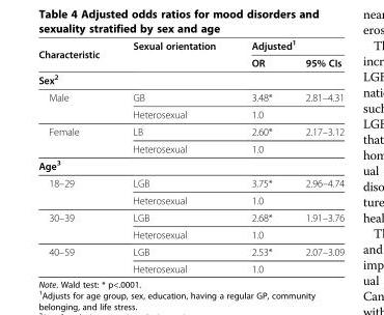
<table><thead><tr><td rowspan="2">Characteristic</td><td rowspan="2">Sexual orientation</td><td colspan="2">Adjusted<sup>1</sup></td></tr><tr><td>OR</td><td>95% CIs</td></tr></thead><tbody><tr><td colspan="4">Sex<sup>2</sup></td></tr><tr><td rowspan="2">Male</td><td>GB</td><td>3.48*</td><td>2.81–4.31</td></tr><tr><td>Heterosexual</td><td>1.0</td><td></td></tr><tr><td rowspan="2">Female</td><td>LB</td><td>2.60*</td><td>2.17–3.12</td></tr><tr><td>Heterosexual</td><td>1.0</td><td></td></tr><tr><td colspan="4">Age<sup>3</sup></td></tr><tr><td rowspan="2">18–29</td><td>LGB</td><td>3.75*</td><td>2.96–4.74</td></tr><tr><td>Heterosexual</td><td>1.0</td><td></td></tr><tr><td rowspan="2">30–39</td><td>LGB</td><td>2.68*</td><td>1.91–3.76</td></tr><tr><td>Heterosexual</td><td>1.0</td><td></td></tr><tr><td rowspan="2">40–59</td><td>LGB</td><td>2.53*</td><td>2.07–3.09</td></tr><tr><td>Heterosexual</td><td>1.0</td><td></td></tr></tbody></table>